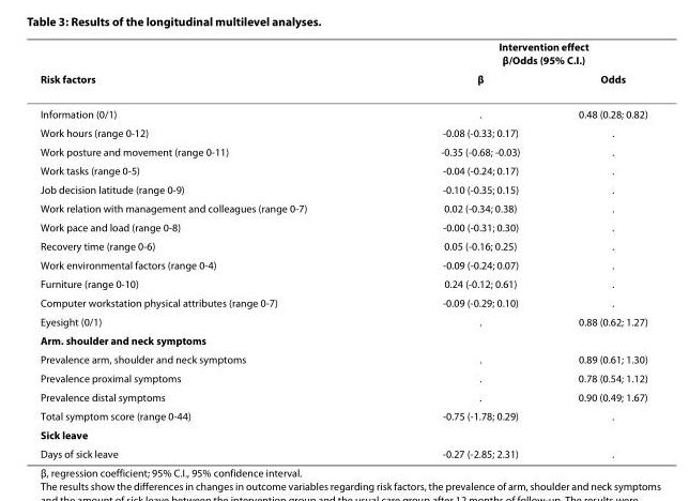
<table><thead><tr><td rowspan="2">Risk factors</td><td colspan="2">Intervention effect β/Odds (95% C.I.)</td></tr><tr><td>β</td><td>Odds</td></tr></thead><tbody><tr><td>Information (0/1)</td><td>.</td><td>0.48 (0.28; 0.82)</td></tr><tr><td>Work hours (range 0-12)</td><td>-0.08 (-0.33; 0.17)</td><td>.</td></tr><tr><td>Work posture and movement (range 0-11)</td><td>-0.35 (-0.68; -0.03)</td><td>.</td></tr><tr><td>Work tasks (range 0-5)</td><td>-0.04 (-0.24; 0.17)</td><td>.</td></tr><tr><td>Job decision latitude (range 0-9)</td><td>-0.10 (-0.35; 0.15)</td><td>.</td></tr><tr><td>Work relation with management and colleagues (range 0-7)</td><td>0.02 (-0.34; 0.38)</td><td>.</td></tr><tr><td>Work pace and load (range 0-8)</td><td>-0.00 (-0.31; 0.30)</td><td>.</td></tr><tr><td>Recovery time (range 0-6)</td><td>0.05 (-0.16; 0.25)</td><td>.</td></tr><tr><td>Work environmental factors (range 0-4)</td><td>-0.09 (-0.24; 0.07)</td><td>.</td></tr><tr><td>Furniture (range 0-10)</td><td>0.24 (-0.12; 0.61)</td><td>.</td></tr><tr><td>Computer workstation physical attributes (range 0-7)</td><td>-0.09 (-0.29; 0.10)</td><td>.</td></tr><tr><td>Eyesight (0/1)</td><td>.</td><td>0.88 (0.62; 1.27)</td></tr><tr><td colspan="3">Arm. shoulder and neck symptoms</td></tr><tr><td>Prevalence arm, shoulder and neck symptoms</td><td>.</td><td>0.89 (0.61; 1.30)</td></tr><tr><td>Prevalence proximal symptoms</td><td>.</td><td>0.78 (0.54; 1.12)</td></tr><tr><td>Prevalence distal symptoms</td><td>.</td><td>0.90 (0.49; 1.67)</td></tr><tr><td>Total symptom score (range 0-44)</td><td>-0.75 (-1.78; 0.29)</td><td>.</td></tr><tr><td colspan="3">Sick leave</td></tr><tr><td>Days of sick leave</td><td>-0.27 (-2.85; 2.31)</td><td>.</td></tr></tbody></table>